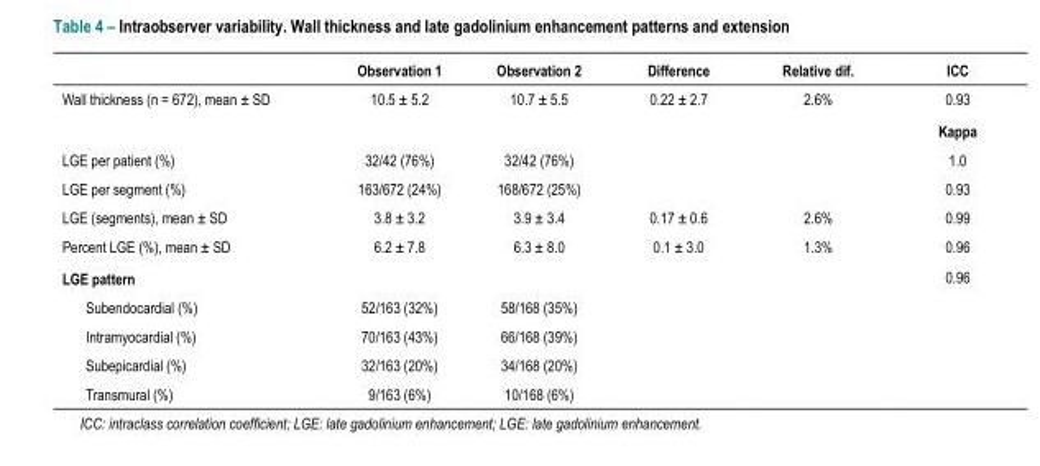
<table><thead><tr><td></td><td>Observation 1</td><td>Observation 2</td><td>Difference</td><td>Relative dif.</td><td>ICC</td></tr></thead><tbody><tr><td rowspan="2">Wall thickness (n = 672), mean ± SD</td><td>10.5 ± 5.2</td><td>10.7 ± 5.5</td><td>0.22 ± 2.7</td><td>2.6%</td><td>0.93</td></tr><tr><td></td><td></td><td></td><td></td><td>Kappa</td></tr><tr><td>LGE per patient (%)</td><td>32/42 (76%)</td><td>32/42 (76%)</td><td></td><td></td><td>1.0</td></tr><tr><td>LGE per segment (%)</td><td>163/672 (24%)</td><td>168/672 (25%)</td><td></td><td></td><td>0.93</td></tr><tr><td>LGE (segments), mean ± SD</td><td>3.8 ± 3.2</td><td>3.9 ± 3.4</td><td>0.17 ± 0.6</td><td>2.6%</td><td>0.99</td></tr><tr><td>Percent LGE (%), mean ± SD</td><td>6.2 ± 7.8</td><td>6.3 ± 8.0</td><td>0.1 ± 3.0</td><td>1.3%</td><td>0.96</td></tr><tr><td>LGE pattern</td><td></td><td></td><td></td><td></td><td>0.96</td></tr><tr><td>Subendocardial (%)</td><td>52/163 (32%)</td><td>58/168 (35%)</td><td></td><td></td><td></td></tr><tr><td>Intramyocardial (%)</td><td>70/163 (43%)</td><td>66/168 (39%)</td><td></td><td></td><td></td></tr><tr><td>Subepicardial (%)</td><td>32/163 (20%)</td><td>34/168 (20%)</td><td></td><td></td><td></td></tr><tr><td>Transmural (%)</td><td>9/163 (6%)</td><td>10/168 (6%)</td><td></td><td></td><td></td></tr></tbody></table>